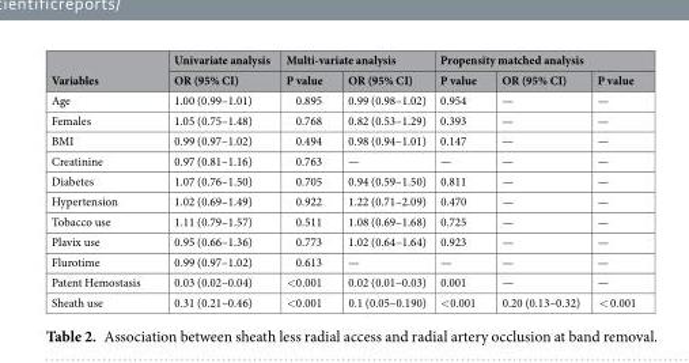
<table><thead><tr><td rowspan="2">Variables</td><td rowspan="2">Univariate analysis OR (95% CI)</td><td colspan="2">Multi-variate analysis</td><td colspan="3">Propensity matched analysis</td></tr><tr><td>P value</td><td>OR (95% CI)</td><td>P value</td><td>OR (95% CI)</td><td>P value</td></tr></thead><tbody><tr><td>Age</td><td>1.00 (0.99–1.01)</td><td>0.895</td><td>0.99 (0.98–1.02)</td><td>0.954</td><td>—</td><td>—</td></tr><tr><td>Females</td><td>1.05 (0.75–1.48)</td><td>0.768</td><td>0.82 (0.53–1.29)</td><td>0.393</td><td>—</td><td>—</td></tr><tr><td>BMI</td><td>0.99 (0.97–1.02)</td><td>0.494</td><td>0.98 (0.94–1.01)</td><td>0.147</td><td>—</td><td>—</td></tr><tr><td>Creatinine</td><td>0.97 (0.81–1.16)</td><td>0.763</td><td>—</td><td>—</td><td>—</td><td>—</td></tr><tr><td>Diabetes</td><td>1.07 (0.76–1.50)</td><td>0.705</td><td>0.94 (0.59–1.50)</td><td>0.811</td><td>—</td><td>—</td></tr><tr><td>Hypertension</td><td>1.02 (0.69–1.49)</td><td>0.922</td><td>1.22 (0.71–2.09)</td><td>0.470</td><td>—</td><td>—</td></tr><tr><td>Tobacco use</td><td>1.11 (0.79–1.57)</td><td>0.511</td><td>1.08 (0.69–1.68)</td><td>0.725</td><td>—</td><td>—</td></tr><tr><td>Plavix use</td><td>0.95 (0.66–1.36)</td><td>0.773</td><td>1.02 (0.64–1.64)</td><td>0.923</td><td>—</td><td>—</td></tr><tr><td>Flurotime</td><td>0.99 (0.97–1.02)</td><td>0.613</td><td>—</td><td>—</td><td>—</td><td>—</td></tr><tr><td>Patent Hemostasis</td><td>0.03 (0.02–0.04)</td><td>&lt;0.001</td><td>0.02 (0.01–0.03)</td><td>0.001</td><td>—</td><td>—</td></tr><tr><td>Sheath use</td><td>0.31 (0.21–0.46)</td><td>&lt;0.001</td><td>0.1 (0.05–0.190)</td><td>&lt;0.001</td><td>0.20 (0.13–0.32)</td><td>&lt; 0.001</td></tr></tbody></table>